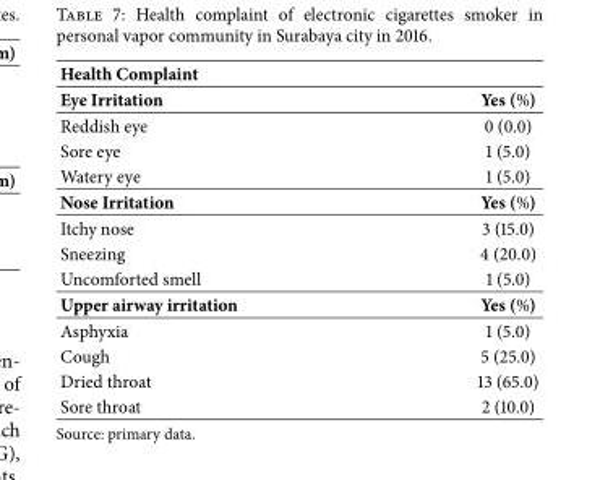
<table><tbody><tr><td colspan="2">Health Complaint</td></tr><tr><td>Eye Irritation</td><td>Yes (%)</td></tr><tr><td>Reddish eye</td><td>0 (0.0)</td></tr><tr><td>Sore eye</td><td>1 (5.0)</td></tr><tr><td>Watery eye</td><td>1 (5.0)</td></tr><tr><td>Nose Irritation</td><td>Yes (%)</td></tr><tr><td>Itchy nose</td><td>3 (15.0)</td></tr><tr><td>Sneezing</td><td>4 (20.0)</td></tr><tr><td>Uncomforted smell</td><td>1 (5.0)</td></tr><tr><td>Upper airway irritation</td><td>Yes (%)</td></tr><tr><td>Asphyxia</td><td>1 (5.0)</td></tr><tr><td>Cough</td><td>5 (25.0)</td></tr><tr><td>Dried throat</td><td>13 (65.0)</td></tr><tr><td>Sore throat</td><td>2 (10.0)</td></tr></tbody></table>